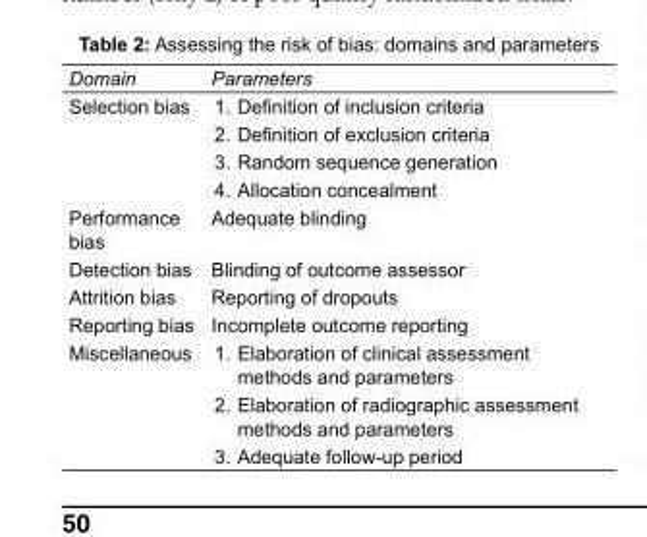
<table><tbody><tr><td>Domain</td><td>Parameters</td></tr><tr><td rowspan="4">Selection bias</td><td>1. Definition of inclusion criteria</td></tr><tr><td>2. Definition of exclusion criteria</td></tr><tr><td>3. Random sequence generation</td></tr><tr><td>4. Allocation concealment</td></tr><tr><td>Performance bias</td><td>Adequate blinding</td></tr><tr><td>Detection bias</td><td>Blinding of outcome assessor</td></tr><tr><td>Attrition bias</td><td>Reporting of dropouts</td></tr><tr><td>Reporting bias</td><td>Incomplete outcome reporting</td></tr><tr><td rowspan="3">Miscellaneous</td><td>1. Elaboration of clinical assessment methods and parameters</td></tr><tr><td>2. Elaboration of radiographic assessment methods and parameters</td></tr><tr><td>3. Adequate follow-up period</td></tr></tbody></table>